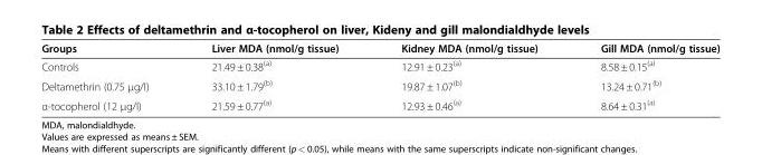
<table><thead><tr><td>Groups</td><td>Liver MDA (nmol/g tissue)</td><td>Kidney MDA (nmol/g tissue)</td><td>Gill MDA (nmol/g tissue)</td></tr></thead><tbody><tr><td>Controls</td><td>21.49 ± 0.38<sup>(a)</sup></td><td>12.91 ± 0.23<sup>(a)</sup></td><td>8.58 ± 0.15<sup>(a)</sup></td></tr><tr><td>Deltamethrin (0.75 μg/l)</td><td>33.10 ± 1.79<sup>(b)</sup></td><td>19.87 ± 1.07<sup>(b)</sup></td><td>13.24 ± 0.71<sup>(b)</sup></td></tr><tr><td>α-tocopherol (12 μg/l)</td><td>21.59 ± 0.77<sup>(a)</sup></td><td>12.93 ± 0.46<sup>(a)</sup></td><td>8.64 ± 0.31<sup>(a)</sup></td></tr></tbody></table>